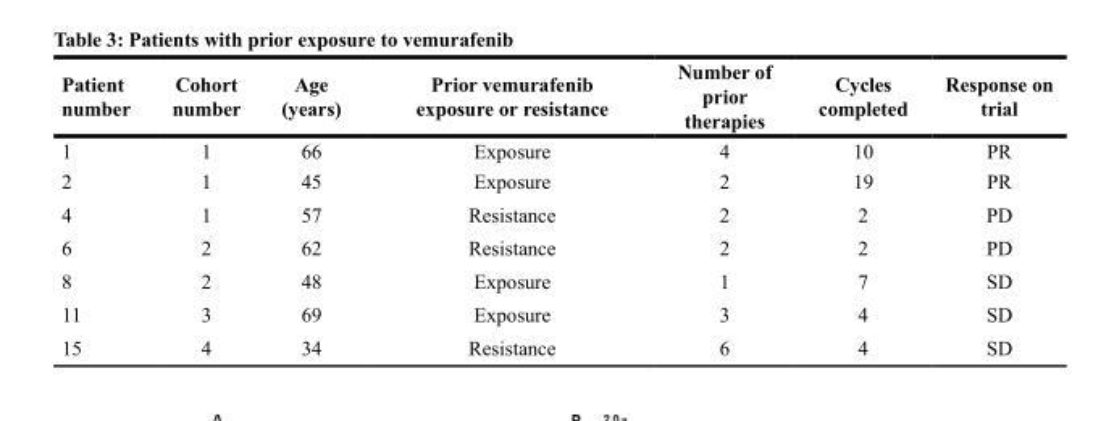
<table><thead><tr><td>Patient number</td><td>Cohort number</td><td>Age (years)</td><td>Prior vemurafenib exposure or resistance</td><td>Number of prior therapies</td><td>Cycles completed</td><td>Response on trial</td></tr></thead><tbody><tr><td>1</td><td>1</td><td>66</td><td>Exposure</td><td>4</td><td>10</td><td>PR</td></tr><tr><td>2</td><td>1</td><td>45</td><td>Exposure</td><td>2</td><td>19</td><td>PR</td></tr><tr><td>4</td><td>1</td><td>57</td><td>Resistance</td><td>2</td><td>2</td><td>PD</td></tr><tr><td>6</td><td>2</td><td>62</td><td>Resistance</td><td>2</td><td>2</td><td>PD</td></tr><tr><td>8</td><td>2</td><td>48</td><td>Exposure</td><td>1</td><td>7</td><td>SD</td></tr><tr><td>11</td><td>3</td><td>69</td><td>Exposure</td><td>3</td><td>4</td><td>SD</td></tr><tr><td>15</td><td>4</td><td>34</td><td>Resistance</td><td>6</td><td>4</td><td>SD</td></tr></tbody></table>